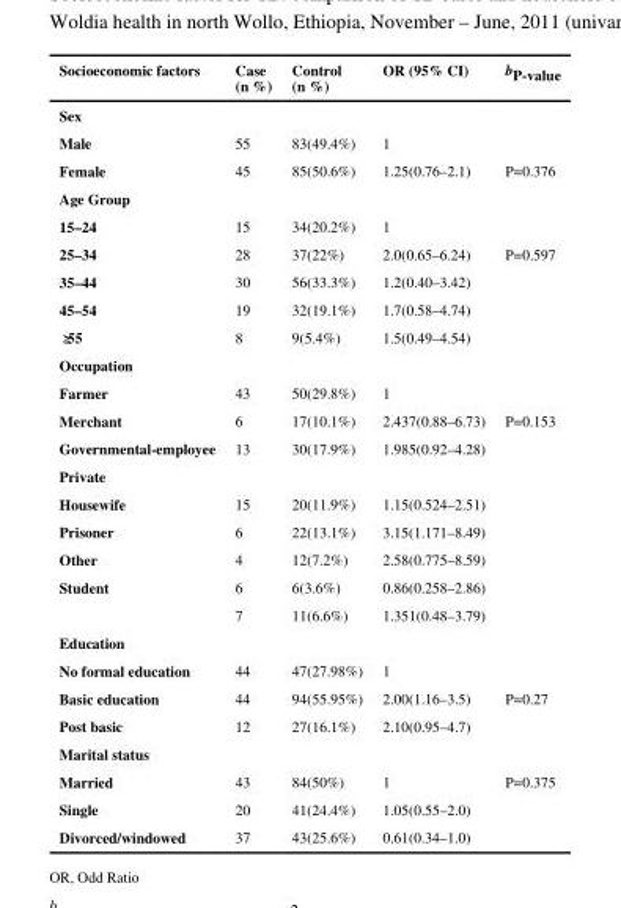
<table><thead><tr><td>Socioeconomic factors</td><td>Case (n %)</td><td>Control (n %)</td><td>OR (95% CI)</td><td>bP-value</td></tr></thead><tbody><tr><td colspan="5">Sex</td></tr><tr><td>Male</td><td>55</td><td>83(49.4%)</td><td>1</td><td></td></tr><tr><td>Female</td><td>45</td><td>85(50.6%)</td><td>1.25(0.76–2.1)</td><td>P=0.376</td></tr><tr><td colspan="5">Age Group</td></tr><tr><td>15–24</td><td>15</td><td>34(20.2%)</td><td>1</td><td></td></tr><tr><td>25–34</td><td>28</td><td>37(22%)</td><td>2.0(0.65–6.24)</td><td>P=0.597</td></tr><tr><td>35–44</td><td>30</td><td>56(33.3%)</td><td>1.2(0.40–3.42)</td><td></td></tr><tr><td>45–54</td><td>19</td><td>32(19.1%)</td><td>1.7(0.58–4.74)</td><td></td></tr><tr><td>≥55</td><td>8</td><td>9(5.4%)</td><td>1.5(0.49–4.54)</td><td></td></tr><tr><td colspan="5">Occupation</td></tr><tr><td>Farmer</td><td>43</td><td>50(29.8%)</td><td>1</td><td></td></tr><tr><td>Merchant</td><td>6</td><td>17(10.1%)</td><td>2.437(0.88–6.73)</td><td>P=0.153</td></tr><tr><td>Governmental-employee</td><td>13</td><td>30(17.9%)</td><td>1.985(0.92–4.28)</td><td></td></tr><tr><td colspan="5">Private</td></tr><tr><td>Housewife</td><td>15</td><td>20(11.9%)</td><td>1.15(0.524–2.51)</td><td></td></tr><tr><td>Prisoner</td><td>6</td><td>22(13.1%)</td><td>3.15(1.171–8.49)</td><td></td></tr><tr><td>Other</td><td>4</td><td>12(7.2%)</td><td>2.58(0.775–8.59)</td><td></td></tr><tr><td rowspan="2">Student</td><td>6</td><td>6(3.6%)</td><td>0.86(0.258–2.86)</td><td></td></tr><tr><td>7</td><td>11(6.6%)</td><td>1.351(0.48–3.79)</td><td></td></tr><tr><td colspan="5">Education</td></tr><tr><td>No formal education</td><td>44</td><td>47(27.98%)</td><td>1</td><td></td></tr><tr><td>Basic education</td><td>44</td><td>94(55.95%)</td><td>2.00(1.16–3.5)</td><td>P=0.27</td></tr><tr><td>Post basic</td><td>12</td><td>27(16.1%)</td><td>2.10(0.95–4.7)</td><td></td></tr><tr><td colspan="5">Marital status</td></tr><tr><td>Married</td><td>43</td><td>84(50%)</td><td>1</td><td>P=0.375</td></tr><tr><td>Single</td><td>20</td><td>41(24.4%)</td><td>1.05(0.55–2.0)</td><td></td></tr><tr><td>Divorced/windowed</td><td>37</td><td>43(25.6%)</td><td>0.61(0.34–1.0)</td><td></td></tr></tbody></table>